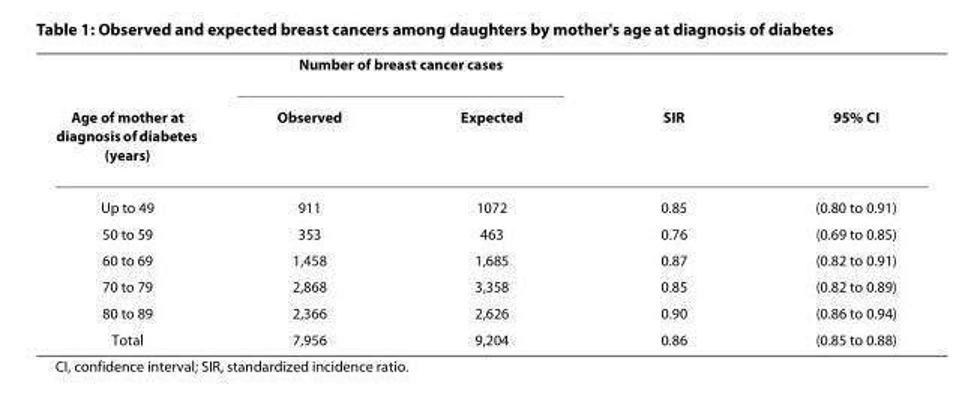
<table><thead><tr><td rowspan="2">Age of mother at diagnosis of diabetes (years)</td><td colspan="2">Number of breast cancer cases</td><td rowspan="2">SIR</td><td rowspan="2">95% CI</td></tr><tr><td>Observed</td><td>Expected</td></tr></thead><tbody><tr><td>Up to 49</td><td>911</td><td>1072</td><td>0.85</td><td>(0.80 to 0.91)</td></tr><tr><td>50 to 59</td><td>353</td><td>463</td><td>0.76</td><td>(0.69 to 0.85)</td></tr><tr><td>60 to 69</td><td>1,458</td><td>1,685</td><td>0.87</td><td>(0.82 to 0.91)</td></tr><tr><td>70 to 79</td><td>2,868</td><td>3,358</td><td>0.85</td><td>(0.82 to 0.89)</td></tr><tr><td>80 to 89</td><td>2,366</td><td>2,626</td><td>0.90</td><td>(0.86 to 0.94)</td></tr><tr><td>Total</td><td>7,956</td><td>9,204</td><td>0.86</td><td>(0.85 to 0.88)</td></tr></tbody></table>